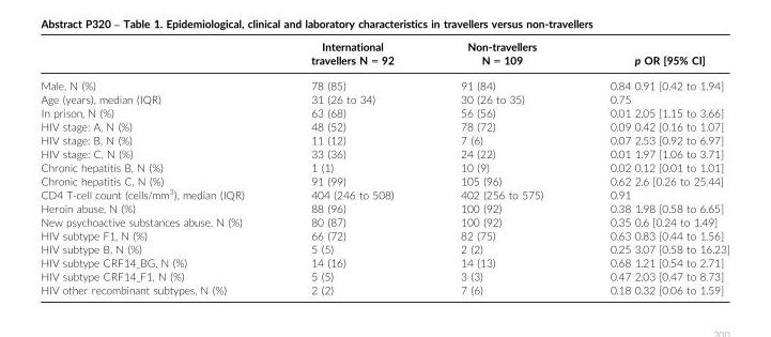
<table><thead><tr><td></td><td>International travellers N = 92</td><td>Non-travellers N = 109</td><td>p OR [95% CI]</td></tr></thead><tbody><tr><td>Male, N (%)</td><td>78 (85)</td><td>91 (84)</td><td>0.84 0.91 [0.42 to 1.94]</td></tr><tr><td>Age (years), median (IQR)</td><td>31 (26 to 34)</td><td>30 (26 to 35)</td><td>0.75</td></tr><tr><td>In prison, N (%)</td><td>63 (68)</td><td>56 (56)</td><td>0.01 2.05 [1.15 to 3.66]</td></tr><tr><td>HIV stage: A, N (%)</td><td>48 (52)</td><td>78 (72)</td><td>0.09 0.42 [0.16 to 1.07]</td></tr><tr><td>HIV stage: B, N (%)</td><td>11 (12)</td><td>7 (6)</td><td>0.07 2.53 [0.92 to 6.97]</td></tr><tr><td>HIV stage: C, N (%)</td><td>33 (36)</td><td>24 (22)</td><td>0.01 1.97 [1.06 to 3.71]</td></tr><tr><td>Chronic hepatitis B, N (%)</td><td>1 (1)</td><td>10 (9)</td><td>0.02 0.12 [0.01 to 1.01]</td></tr><tr><td>Chronic hepatitis C, N (%)</td><td>91 (99)</td><td>105 (96)</td><td>0.62 2.6 [0.26 to 25.44]</td></tr><tr><td>CD4 T-cell count (cells/mm<sup>3</sup>), median (IQR)</td><td>404 (246 to 508)</td><td>402 (256 to 575)</td><td>0.91</td></tr><tr><td>Heroin abuse, N (%)</td><td>88 (96)</td><td>100 (92)</td><td>0.38 1.98 [0.58 to 6.65]</td></tr><tr><td>New psychoactive substances abuse, N (%)</td><td>80 (87)</td><td>100 (92)</td><td>0.35 0.6 [0.24 to 1.49]</td></tr><tr><td>HIV subtype F1, N (%)</td><td>66 (72)</td><td>82 (75)</td><td>0.63 0.83 [0.44 to 1.56]</td></tr><tr><td>HIV subtype B, N (%)</td><td>5 (5)</td><td>2 (2)</td><td>0.25 3.07 [0.58 to 16.23]</td></tr><tr><td>HIV subtype CRF14_BG, N (%)</td><td>14 (16)</td><td>14 (13)</td><td>0.68 1.21 [0.54 to 2.71]</td></tr><tr><td>HIV subtype CRF14_F1, N (%)</td><td>5 (5)</td><td>3 (3)</td><td>0.47 2.03 [0.47 to 8.73]</td></tr><tr><td>HIV other recombinant subtypes, N (%)</td><td>2 (2)</td><td>7 (6)</td><td>0.18 0.32 [0.06 to 1.59]</td></tr></tbody></table>